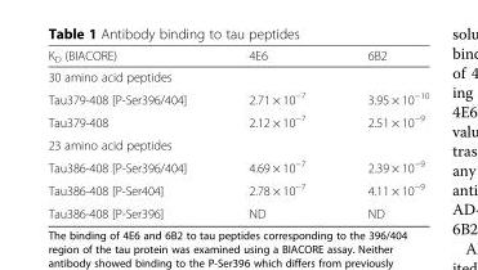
<table><thead><tr><td>K<sub>D</sub> (BIACORE)</td><td>4E6</td><td>6B2</td></tr></thead><tbody><tr><td colspan="3">30 amino acid peptides</td></tr><tr><td>Tau379-408 [P-Ser396/404]</td><td>2.71 × 10<sup>−7</sup></td><td>3.95 × 10<sup>−10</sup></td></tr><tr><td>Tau379-408</td><td>2.12 × 10<sup>−7</sup></td><td>2.51 × 10<sup>−9</sup></td></tr><tr><td colspan="3">23 amino acid peptides</td></tr><tr><td>Tau386-408 [P-Ser396/404]</td><td>4.69 × 10<sup>−7</sup></td><td>2.39 × 10<sup>−9</sup></td></tr><tr><td>Tau386-408 [P-Ser404]</td><td>2.78 × 10<sup>−7</sup></td><td>4.11 × 10<sup>−9</sup></td></tr><tr><td>Tau386-408 [P-Ser396]</td><td>ND</td><td>ND</td></tr></tbody></table>